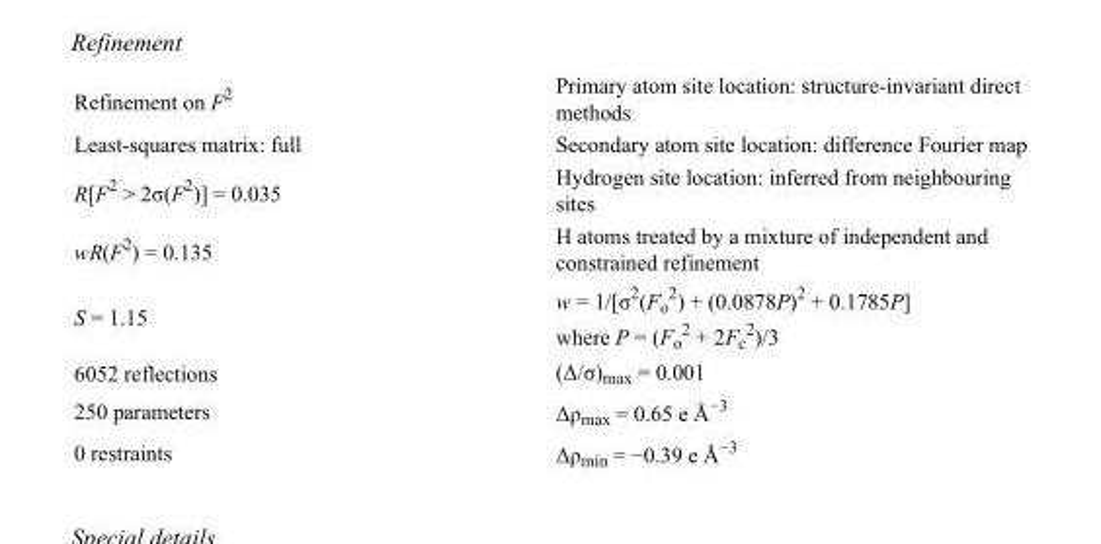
<table><tbody><tr><td>Refinement on F<sup>2</sup></td><td>Primary atom site location: structure-invariant direct methods</td></tr><tr><td>Least-squares matrix: full</td><td>Secondary atom site location: difference Fourier map</td></tr><tr><td>R[F<sup>2</sup> &gt; 2σ(F<sup>2</sup>)] = 0.035</td><td>Hydrogen site location: inferred from neighbouring sites</td></tr><tr><td>wR(F<sup>2</sup>) = 0.135</td><td>H atoms treated by a mixture of independent and constrained refinement</td></tr><tr><td>S = 1.15</td><td>w = 1/[σ<sup>2</sup>(F<sub>o</sub> <sup>2</sup>) + (0.0878P)<sup>2</sup> + 0.1785P] where P = (F<sub>o</sub> <sup>2</sup> + 2F<sub>c</sub> <sup>2</sup>)/3</td></tr><tr><td>6052 reflections</td><td>(Δ/σ)<sub>max</sub> = 0.001</td></tr><tr><td>250 parameters</td><td>Δρ<sub>max</sub> = 0.65 e Å<sup>−3</sup></td></tr><tr><td>0 restraints</td><td>Δρ<sub>min</sub> = −0.39 e Å<sup>−3</sup></td></tr></tbody></table>